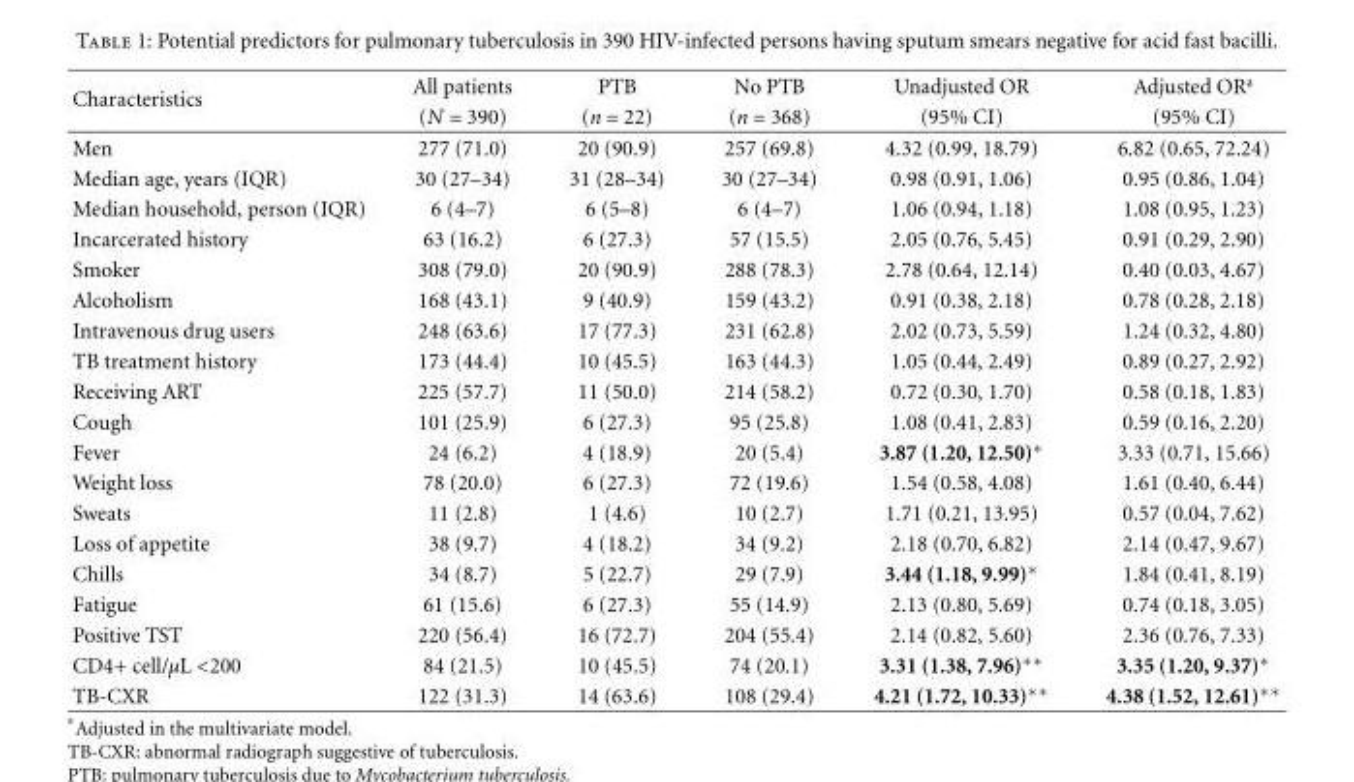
<table><thead><tr><td rowspan="2">Characteristics</td><td rowspan="2">All patients (N = 390)</td><td rowspan="2">PTB (n = 22)</td><td rowspan="2">No PTB (n = 368)</td><td rowspan="2">Unadjusted OR (95% CI)</td><td rowspan="2">Adjusted OR<sup>a</sup> (95% CI)</td></tr><tr></tr></thead><tbody><tr><td>Men</td><td>277 (71.0)</td><td>20 (90.9)</td><td>257 (69.8)</td><td>4.32 (0.99, 18.79)</td><td>6.82 (0.65, 72.24)</td></tr><tr><td>Median age, years (IQR)</td><td>30 (27–34)</td><td>31 (28–34)</td><td>30 (27–34)</td><td>0.98 (0.91, 1.06)</td><td>0.95 (0.86, 1.04)</td></tr><tr><td>Median household, person (IQR)</td><td>6 (4–7)</td><td>6 (5–8)</td><td>6 (4–7)</td><td>1.06 (0.94, 1.18)</td><td>1.08 (0.95, 1.23)</td></tr><tr><td>Incarcerated history</td><td>63 (16.2)</td><td>6 (27.3)</td><td>57 (15.5)</td><td>2.05 (0.76, 5.45)</td><td>0.91 (0.29, 2.90)</td></tr><tr><td>Smoker</td><td>308 (79.0)</td><td>20 (90.9)</td><td>288 (78.3)</td><td>2.78 (0.64, 12.14)</td><td>0.40 (0.03, 4.67)</td></tr><tr><td>Alcoholism</td><td>168 (43.1)</td><td>9 (40.9)</td><td>159 (43.2)</td><td>0.91 (0.38, 2.18)</td><td>0.78 (0.28, 2.18)</td></tr><tr><td>Intravenous drug users</td><td>248 (63.6)</td><td>17 (77.3)</td><td>231 (62.8)</td><td>2.02 (0.73, 5.59)</td><td>1.24 (0.32, 4.80)</td></tr><tr><td>TB treatment history</td><td>173 (44.4)</td><td>10 (45.5)</td><td>163 (44.3)</td><td>1.05 (0.44, 2.49)</td><td>0.89 (0.27, 2.92)</td></tr><tr><td>Receiving ART</td><td>225 (57.7)</td><td>11 (50.0)</td><td>214 (58.2)</td><td>0.72 (0.30, 1.70)</td><td>0.58 (0.18, 1.83)</td></tr><tr><td>Cough</td><td>101 (25.9)</td><td>6 (27.3)</td><td>95 (25.8)</td><td>1.08 (0.41, 2.83)</td><td>0.59 (0.16, 2.20)</td></tr><tr><td>Fever</td><td>24 (6.2)</td><td>4 (18.9)</td><td>20 (5.4)</td><td>3.87 (1.20, 12.50)∗</td><td>3.33 (0.71, 15.66)</td></tr><tr><td>Weight loss</td><td>78 (20.0)</td><td>6 (27.3)</td><td>72 (19.6)</td><td>1.54 (0.58, 4.08)</td><td>1.61 (0.40, 6.44)</td></tr><tr><td>Sweats</td><td>11 (2.8)</td><td>1 (4.6)</td><td>10 (2.7)</td><td>1.71 (0.21, 13.95)</td><td>0.57 (0.04, 7.62)</td></tr><tr><td>Loss of appetite</td><td>38 (9.7)</td><td>4 (18.2)</td><td>34 (9.2)</td><td>2.18 (0.70, 6.82)</td><td>2.14 (0.47, 9.67)</td></tr><tr><td>Chills</td><td>34 (8.7)</td><td>5 (22.7)</td><td>29 (7.9)</td><td>3.44 (1.18, 9.99)∗</td><td>1.84 (0.41, 8.19)</td></tr><tr><td>Fatigue</td><td>61 (15.6)</td><td>6 (27.3)</td><td>55 (14.9)</td><td>2.13 (0.80, 5.69)</td><td>0.74 (0.18, 3.05)</td></tr><tr><td>Positive TST</td><td>220 (56.4)</td><td>16 (72.7)</td><td>204 (55.4)</td><td>2.14 (0.82, 5.60)</td><td>2.36 (0.76, 7.33)</td></tr><tr><td>CD4+ cell/µL &lt;200</td><td>84 (21.5)</td><td>10 (45.5)</td><td>74 (20.1)</td><td>3.31 (1.38, 7.96)∗∗</td><td>3.35 (1.20, 9.37)∗</td></tr><tr><td>TB-CXR</td><td>122 (31.3)</td><td>14 (63.6)</td><td>108 (29.4)</td><td>4.21 (1.72, 10.33)∗∗</td><td>4.38 (1.52, 12.61)∗∗</td></tr></tbody></table>